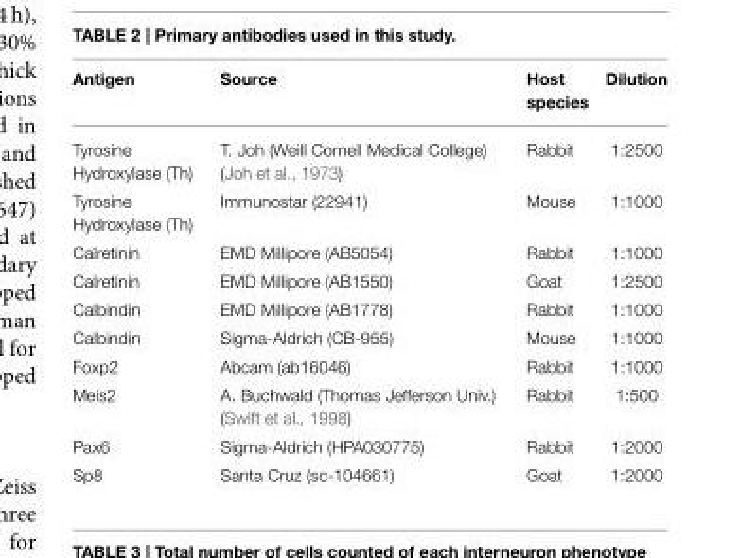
<table><thead><tr><td>Antigen</td><td>Source</td><td>Host species</td><td>Dilution</td></tr></thead><tbody><tr><td>Tyrosine Hydroxylase (Th)</td><td>T. Joh (Weill Cornell Medical College) (Joh et al., 1973)</td><td>Rabbit</td><td>1:2500</td></tr><tr><td>Tyrosine Hydroxylase (Th)</td><td>Immunostar (22941)</td><td>Mouse</td><td>1:1000</td></tr><tr><td>Calretinin</td><td>EMD Millipore (AB5054)</td><td>Rabbit</td><td>1:1000</td></tr><tr><td>Calretinin</td><td>EMD Millipore (AB1550)</td><td>Goat</td><td>1:2500</td></tr><tr><td>Calbindin</td><td>EMD Millipore (AB1778)</td><td>Rabbit</td><td>1:1000</td></tr><tr><td>Calbindin</td><td>Sigma-Aldrich (CB-955)</td><td>Mouse</td><td>1:1000</td></tr><tr><td>Foxp2</td><td>Abcam (ab16046)</td><td>Rabbit</td><td>1:1000</td></tr><tr><td>Meis2</td><td>A. Buchwald (Thomas Jefferson Univ.) (Swift et al., 1998)</td><td>Rabbit</td><td>1:500</td></tr><tr><td>Pax6</td><td>Sigma-Aldrich (HPA030775)</td><td>Rabbit</td><td>1:2000</td></tr><tr><td>Sp8</td><td>Santa Cruz (sc-104661)</td><td>Goat</td><td>1:2000</td></tr></tbody></table>